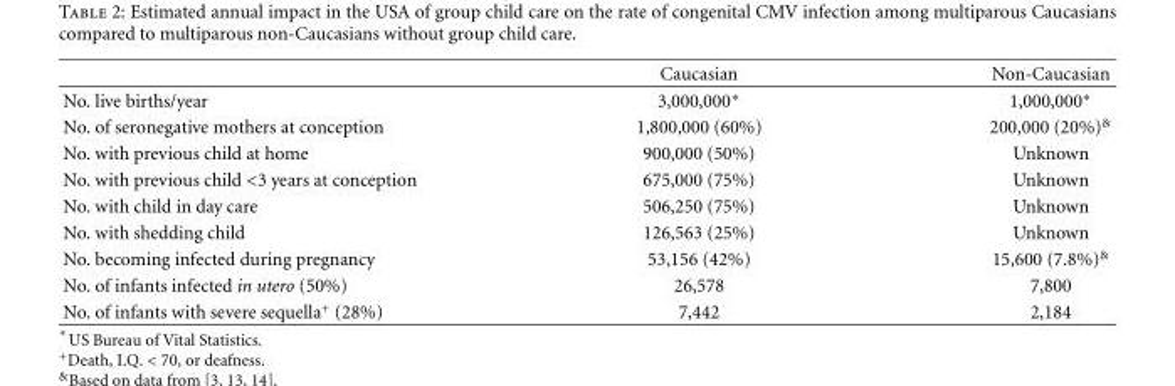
<table><thead><tr><td></td><td>Caucasian</td><td>Non-Caucasian</td></tr></thead><tbody><tr><td>No. live births/year</td><td>3,000,000∗</td><td>1,000,000∗</td></tr><tr><td>No. of seronegative mothers at conception</td><td>1,800,000 (60%)</td><td>200,000 (20%)<sup>&amp;</sup></td></tr><tr><td>No. with previous child at home</td><td>900,000 (50%)</td><td>Unknown</td></tr><tr><td>No. with previous child &lt;3 years at conception</td><td>675,000 (75%)</td><td>Unknown</td></tr><tr><td>No. with child in day care</td><td>506,250 (75%)</td><td>Unknown</td></tr><tr><td>No. with shedding child</td><td>126,563 (25%)</td><td>Unknown</td></tr><tr><td>No. becoming infected during pregnancy</td><td>53,156 (42%)</td><td>15,600 (7.8%)<sup>&amp;</sup></td></tr><tr><td>No. of infants infected in utero (50%)</td><td>26,578</td><td>7,800</td></tr><tr><td>No. of infants with severe sequella<sup>+</sup> (28%)</td><td>7,442</td><td>2,184</td></tr></tbody></table>